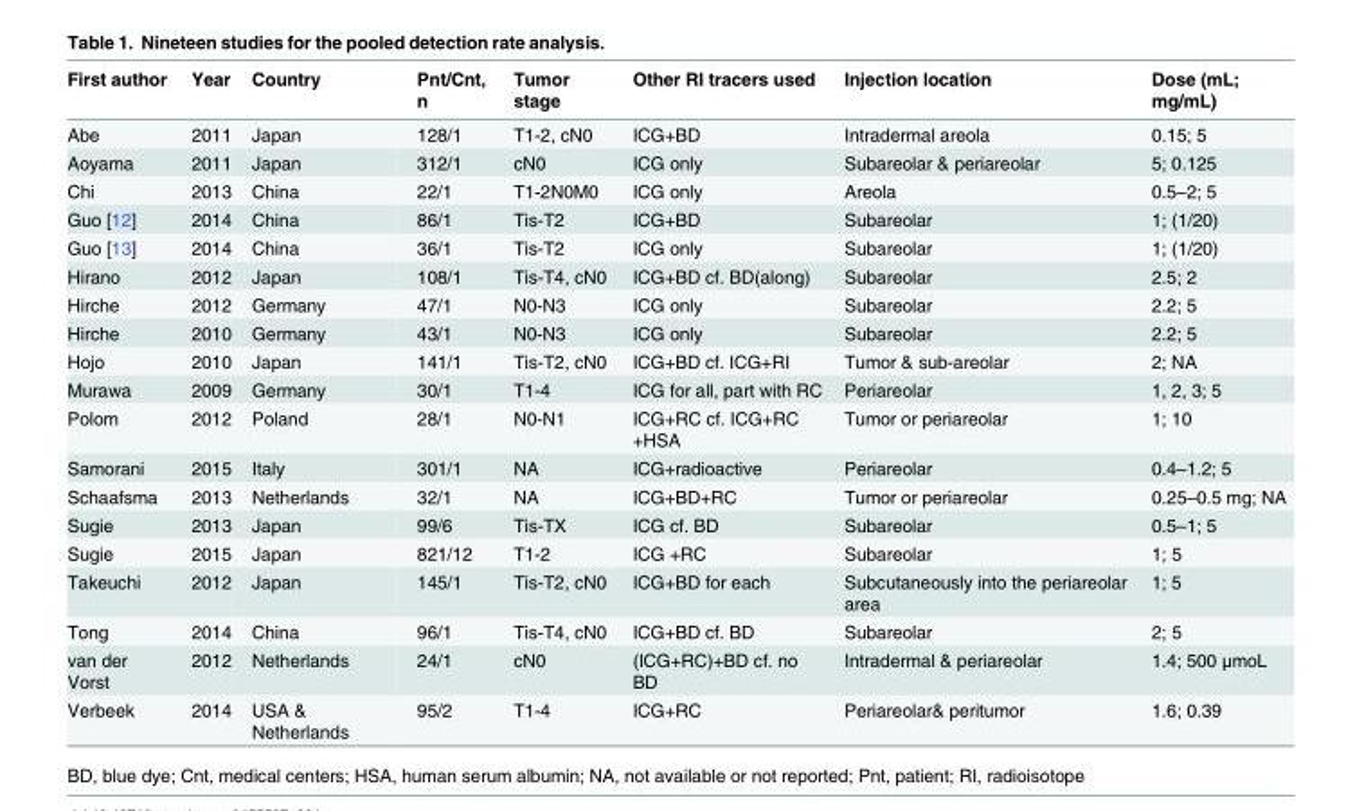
<table><thead><tr><td>First author</td><td>Year</td><td>Country</td><td>Pnt/Cnt, n</td><td>Tumor stage</td><td>Other RI tracers used</td><td>Injection location</td><td>Dose (mL; mg/mL)</td></tr></thead><tbody><tr><td>Abe</td><td>2011</td><td>Japan</td><td>128/1</td><td>T1-2, cN0</td><td>ICG+BD</td><td>Intradermal areola</td><td>0.15; 5</td></tr><tr><td>Aoyama</td><td>2011</td><td>Japan</td><td>312/1</td><td>cN0</td><td>ICG only</td><td>Subareolar &amp; periareolar</td><td>5; 0.125</td></tr><tr><td>Chi</td><td>2013</td><td>China</td><td>22/1</td><td>T1-2N0M0</td><td>ICG only</td><td>Areola</td><td>0.5–2; 5</td></tr><tr><td>Guo [12]</td><td>2014</td><td>China</td><td>86/1</td><td>Tis-T2</td><td>ICG+BD</td><td>Subareolar</td><td>1; (1/20)</td></tr><tr><td>Guo [13]</td><td>2014</td><td>China</td><td>36/1</td><td>Tis-T2</td><td>ICG only</td><td>Subareolar</td><td>1; (1/20)</td></tr><tr><td>Hirano</td><td>2012</td><td>Japan</td><td>108/1</td><td>Tis-T4, cN0</td><td>ICG+BD cf. BD(along)</td><td>Subareolar</td><td>2.5; 2</td></tr><tr><td>Hirche</td><td>2012</td><td>Germany</td><td>47/1</td><td>N0-N3</td><td>ICG only</td><td>Subareolar</td><td>2.2; 5</td></tr><tr><td>Hirche</td><td>2010</td><td>Germany</td><td>43/1</td><td>N0-N3</td><td>ICG only</td><td>Subareolar</td><td>2.2; 5</td></tr><tr><td>Hojo</td><td>2010</td><td>Japan</td><td>141/1</td><td>Tis-T2, cN0</td><td>ICG+BD cf. ICG+RI</td><td>Tumor &amp; sub-areolar</td><td>2; NA</td></tr><tr><td>Murawa</td><td>2009</td><td>Germany</td><td>30/1</td><td>T1-4</td><td>ICG for all, part with RC</td><td>Periareolar</td><td>1, 2, 3; 5</td></tr><tr><td>Polom</td><td>2012</td><td>Poland</td><td>28/1</td><td>N0-N1</td><td>ICG+RC cf. ICG+RC +HSA</td><td>Tumor or periareolar</td><td>1; 10</td></tr><tr><td>Samorani</td><td>2015</td><td>Italy</td><td>301/1</td><td>NA</td><td>ICG+radioactive</td><td>Periareolar</td><td>0.4–1.2; 5</td></tr><tr><td>Schaafsma</td><td>2013</td><td>Netherlands</td><td>32/1</td><td>NA</td><td>ICG+BD+RC</td><td>Tumor or periareolar</td><td>0.25–0.5 mg; NA</td></tr><tr><td>Sugie</td><td>2013</td><td>Japan</td><td>99/6</td><td>Tis-TX</td><td>ICG cf. BD</td><td>Subareolar</td><td>0.5–1; 5</td></tr><tr><td>Sugie</td><td>2015</td><td>Japan</td><td>821/12</td><td>T1-2</td><td>ICG +RC</td><td>Subareolar</td><td>1; 5</td></tr><tr><td>Takeuchi</td><td>2012</td><td>Japan</td><td>145/1</td><td>Tis-T2, cN0</td><td>ICG+BD for each</td><td>Subcutaneously into the periareolar area</td><td>1; 5</td></tr><tr><td>Tong</td><td>2014</td><td>China</td><td>96/1</td><td>Tis-T4, cN0</td><td>ICG+BD cf. BD</td><td>Subareolar</td><td>2; 5</td></tr><tr><td>van der Vorst</td><td>2012</td><td>Netherlands</td><td>24/1</td><td>cN0</td><td>(ICG+RC)+BD cf. no BD</td><td>Intradermal &amp; periareolar</td><td>1.4; 500 μmoL</td></tr><tr><td>Verbeek</td><td>2014</td><td>USA &amp; Netherlands</td><td>95/2</td><td>T1-4</td><td>ICG+RC</td><td>Periareolar&amp; peritumor</td><td>1.6; 0.39</td></tr></tbody></table>